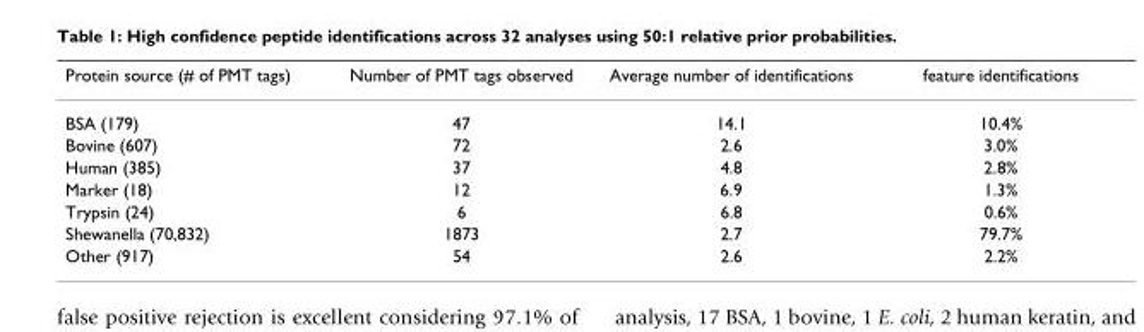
<table><thead><tr><td>Protein source (# of PMT tags)</td><td>Number of PMT tags observed</td><td>Average number of identifications</td><td>feature identifications</td></tr></thead><tbody><tr><td>BSA (179)</td><td>47</td><td>14.1</td><td>10.4%</td></tr><tr><td>Bovine (607)</td><td>72</td><td>2.6</td><td>3.0%</td></tr><tr><td>Human (385)</td><td>37</td><td>4.8</td><td>2.8%</td></tr><tr><td>Marker (18)</td><td>12</td><td>6.9</td><td>1.3%</td></tr><tr><td>Trypsin (24)</td><td>6</td><td>6.8</td><td>0.6%</td></tr><tr><td>Shewanella (70,832)</td><td>1873</td><td>2.7</td><td>79.7%</td></tr><tr><td>Other (917)</td><td>54</td><td>2.6</td><td>2.2%</td></tr></tbody></table>